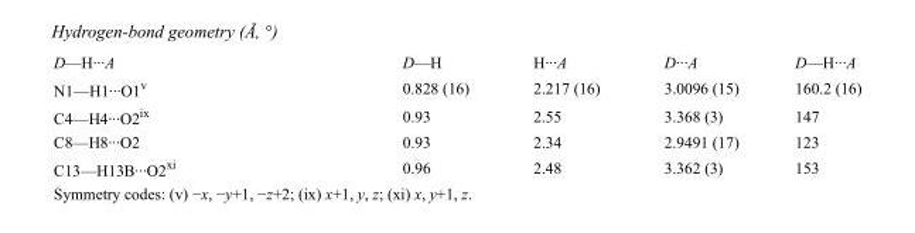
<table><tbody><tr><td>D—H···A</td><td>D—H</td><td>H···A</td><td>D···A</td><td>D—H···A</td></tr><tr><td>N1—H1···O1<sup>v</sup></td><td>0.828 (16)</td><td>2.217 (16)</td><td>3.0096 (15)</td><td>160.2 (16)</td></tr><tr><td>C4—H4···O2<sup>ix</sup></td><td>0.93</td><td>2.55</td><td>3.368 (3)</td><td>147</td></tr><tr><td>C8—H8···O2</td><td>0.93</td><td>2.34</td><td>2.9491 (17)</td><td>123</td></tr><tr><td>C13—H13B···O2<sup>xi</sup></td><td>0.96</td><td>2.48</td><td>3.362 (3)</td><td>153</td></tr></tbody></table>